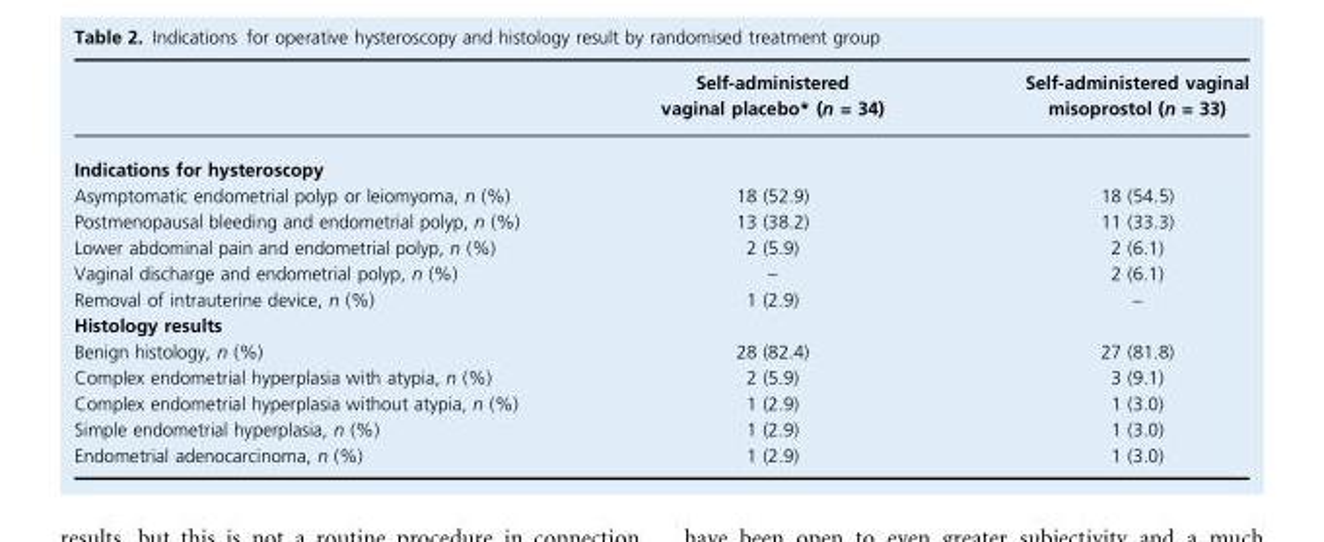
<table><thead><tr><td></td><td>Self-administered vaginal placebo* (n = 34)</td><td>Self-administered vaginal misoprostol (n = 33)</td></tr></thead><tbody><tr><td colspan="3">Indications for hysteroscopy</td></tr><tr><td>Asymptomatic endometrial polyp or leiomyoma, n (%)</td><td>18 (52.9)</td><td>18 (54.5)</td></tr><tr><td>Postmenopausal bleeding and endometrial polyp, n (%)</td><td>13 (38.2)</td><td>11 (33.3)</td></tr><tr><td>Lower abdominal pain and endometrial polyp, n (%)</td><td>2 (5.9)</td><td>2 (6.1)</td></tr><tr><td>Vaginal discharge and endometrial polyp, n (%)</td><td>–</td><td>2 (6.1)</td></tr><tr><td>Removal of intrauterine device, n (%)</td><td>1 (2.9)</td><td>–</td></tr><tr><td colspan="3">Histology results</td></tr><tr><td>Benign histology, n (%)</td><td>28 (82.4)</td><td>27 (81.8)</td></tr><tr><td>Complex endometrial hyperplasia with atypia, n (%)</td><td>2 (5.9)</td><td>3 (9.1)</td></tr><tr><td>Complex endometrial hyperplasia without atypia, n (%)</td><td>1 (2.9)</td><td>1 (3.0)</td></tr><tr><td>Simple endometrial hyperplasia, n (%)</td><td>1 (2.9)</td><td>1 (3.0)</td></tr><tr><td>Endometrial adenocarcinoma, n (%)</td><td>1 (2.9)</td><td>1 (3.0)</td></tr></tbody></table>